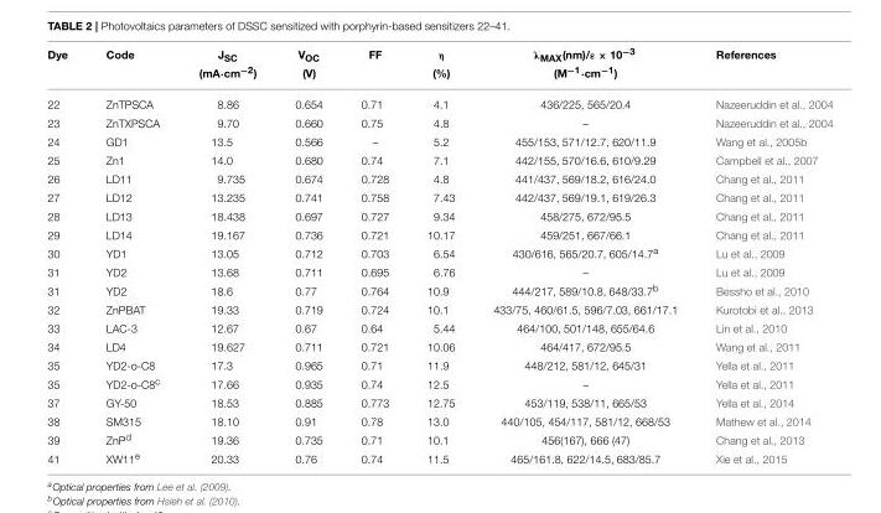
<table><thead><tr><td rowspan="2">Dye</td><td rowspan="2">Code</td><td rowspan="2">J<sub>SC</sub> (mA·cm<sup>−2</sup>)</td><td rowspan="2">V<sub>OC</sub> (V)</td><td rowspan="2">FF</td><td rowspan="2">η (%)</td><td rowspan="2">λ<sub>MAX</sub>(nm)/ε × 10<sup>−3</sup> (M<sup>−1</sup>·cm<sup>−1</sup>)</td><td rowspan="2">References</td></tr><tr></tr></thead><tbody><tr><td>22</td><td>ZnTPSCA</td><td>8.86</td><td>0.654</td><td>0.71</td><td>4.1</td><td>436/225, 565/20.4</td><td>Nazeeruddin et al., 2004</td></tr><tr><td>23</td><td>ZnTXPSCA</td><td>9.70</td><td>0.660</td><td>0.75</td><td>4.8</td><td>–</td><td>Nazeeruddin et al., 2004</td></tr><tr><td>24</td><td>GD1</td><td>13.5</td><td>0.566</td><td>–</td><td>5.2</td><td>455/153, 571/12.7, 620/11.9</td><td>Wang et al., 2005b</td></tr><tr><td>25</td><td>Zn1</td><td>14.0</td><td>0.680</td><td>0.74</td><td>7.1</td><td>442/155, 570/16.6, 610/9.29</td><td>Campbell et al., 2007</td></tr><tr><td>26</td><td>LD11</td><td>9.735</td><td>0.674</td><td>0.728</td><td>4.8</td><td>441/437, 569/18.2, 616/24.0</td><td>Chang et al., 2011</td></tr><tr><td>27</td><td>LD12</td><td>13.235</td><td>0.741</td><td>0.758</td><td>7.43</td><td>442/437, 569/19.1, 619/26.3</td><td>Chang et al., 2011</td></tr><tr><td>28</td><td>LD13</td><td>18.438</td><td>0.697</td><td>0.727</td><td>9.34</td><td>458/275, 672/95.5</td><td>Chang et al., 2011</td></tr><tr><td>29</td><td>LD14</td><td>19.167</td><td>0.736</td><td>0.721</td><td>10.17</td><td>459/251, 667/66.1</td><td>Chang et al., 2011</td></tr><tr><td>30</td><td>YD1</td><td>13.05</td><td>0.712</td><td>0.703</td><td>6.54</td><td>430/616, 565/20.7, 605/14.7<sup>a</sup></td><td>Lu et al., 2009</td></tr><tr><td>31</td><td>YD2</td><td>13.68</td><td>0.711</td><td>0.695</td><td>6.76</td><td>–</td><td>Lu et al., 2009</td></tr><tr><td>31</td><td>YD2</td><td>18.6</td><td>0.77</td><td>0.764</td><td>10.9</td><td>444/217, 589/10.8, 648/33.7<sup>b</sup></td><td>Bessho et al., 2010</td></tr><tr><td>32</td><td>ZnPBAT</td><td>19.33</td><td>0.719</td><td>0.724</td><td>10.1</td><td>433/75, 460/61.5, 596/7.03, 661/17.1</td><td>Kurotobi et al., 2013</td></tr><tr><td>33</td><td>LAC-3</td><td>12.67</td><td>0.67</td><td>0.64</td><td>5.44</td><td>464/100, 501/148, 655/64.6</td><td>Lin et al., 2010</td></tr><tr><td>34</td><td>LD4</td><td>19.627</td><td>0.711</td><td>0.721</td><td>10.06</td><td>464/417, 672/95.5</td><td>Wang et al., 2011</td></tr><tr><td>35</td><td>YD2-o-C8</td><td>17.3</td><td>0.965</td><td>0.71</td><td>11.9</td><td>448/212, 581/12, 645/31</td><td>Yella et al., 2011</td></tr><tr><td>35</td><td>YD2-o-C8<sup>c</sup></td><td>17.66</td><td>0.935</td><td>0.74</td><td>12.5</td><td>–</td><td>Yella et al., 2011</td></tr><tr><td>37</td><td>GY-50</td><td>18.53</td><td>0.885</td><td>0.773</td><td>12.75</td><td>453/119, 538/11, 665/53</td><td>Yella et al., 2014</td></tr><tr><td>38</td><td>SM315</td><td>18.10</td><td>0.91</td><td>0.78</td><td>13.0</td><td>440/105, 454/117, 581/12, 668/53</td><td>Mathew et al., 2014</td></tr><tr><td>39</td><td>ZnP<sup>d</sup></td><td>19.36</td><td>0.735</td><td>0.71</td><td>10.1</td><td>456(167), 666 (47)</td><td>Chang et al., 2013</td></tr><tr><td>41</td><td>XW11<sup>e</sup></td><td>20.33</td><td>0.76</td><td>0.74</td><td>11.5</td><td>465/161.8, 622/14.5, 683/85.7</td><td>Xie et al., 2015</td></tr></tbody></table>